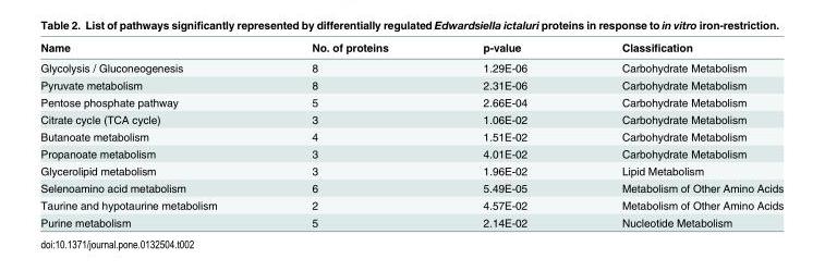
<table><thead><tr><td>Name</td><td>No. of proteins</td><td>p-value</td><td>Classification</td></tr></thead><tbody><tr><td>Glycolysis / Gluconeogenesis</td><td>8</td><td>1.29E-06</td><td>Carbohydrate Metabolism</td></tr><tr><td>Pyruvate metabolism</td><td>8</td><td>2.31E-06</td><td>Carbohydrate Metabolism</td></tr><tr><td>Pentose phosphate pathway</td><td>5</td><td>2.66E-04</td><td>Carbohydrate Metabolism</td></tr><tr><td>Citrate cycle (TCA cycle)</td><td>3</td><td>1.06E-02</td><td>Carbohydrate Metabolism</td></tr><tr><td>Butanoate metabolism</td><td>4</td><td>1.51E-02</td><td>Carbohydrate Metabolism</td></tr><tr><td>Propanoate metabolism</td><td>3</td><td>4.01E-02</td><td>Carbohydrate Metabolism</td></tr><tr><td>Glycerolipid metabolism</td><td>3</td><td>1.96E-02</td><td>Lipid Metabolism</td></tr><tr><td>Selenoamino acid metabolism</td><td>6</td><td>5.49E-05</td><td>Metabolism of Other Amino Acids</td></tr><tr><td>Taurine and hypotaurine metabolism</td><td>2</td><td>4.57E-02</td><td>Metabolism of Other Amino Acids</td></tr><tr><td>Purine metabolism</td><td>5</td><td>2.14E-02</td><td>Nucleotide Metabolism</td></tr></tbody></table>